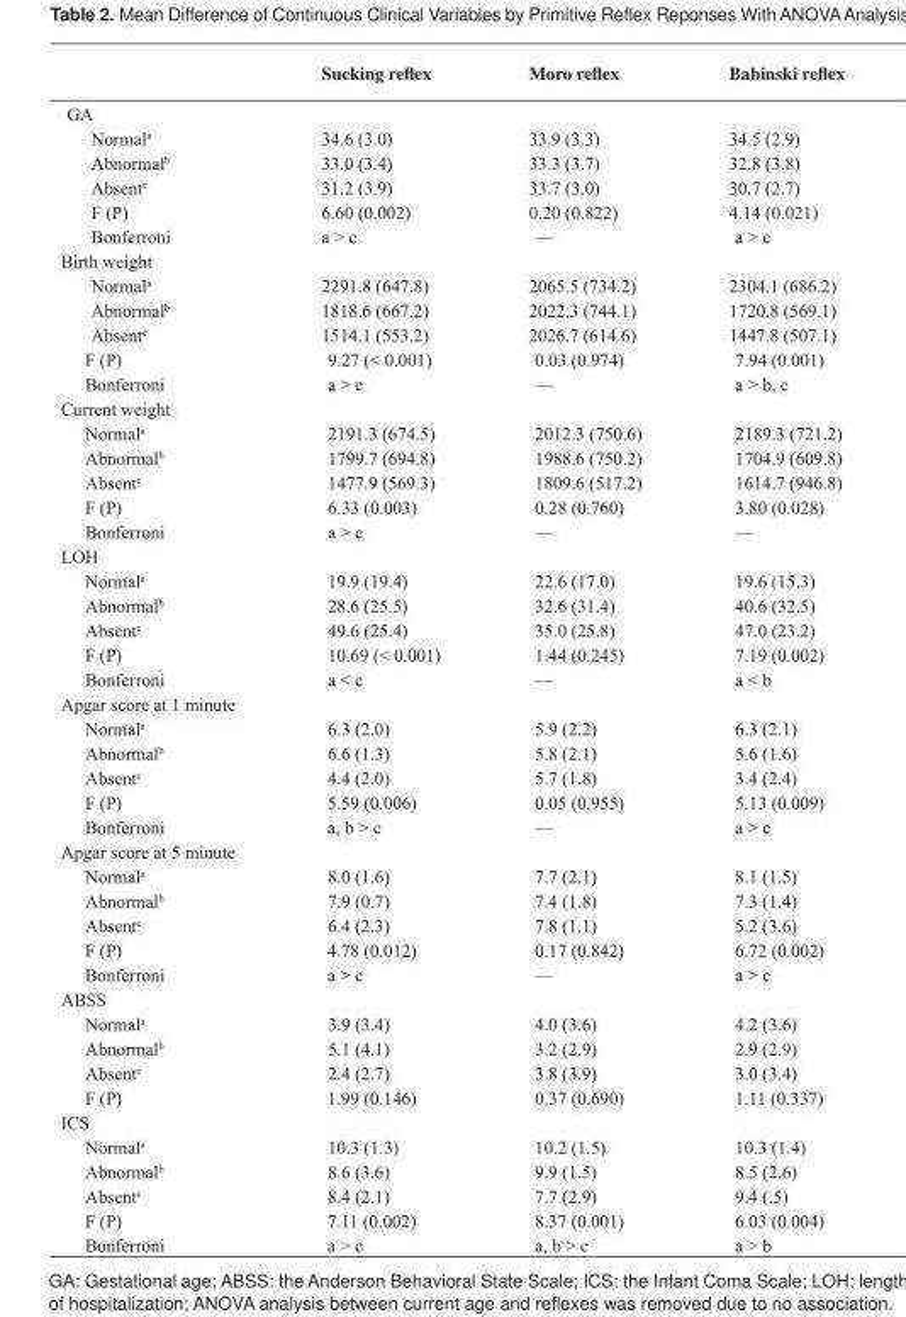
<table><thead><tr><td></td><td>Sucking refl ex</td><td>Moro refl ex</td><td>Babinski refl ex</td></tr></thead><tbody><tr><td colspan="4">GA</td></tr><tr><td>Normal<sup>a</sup></td><td>34.6 (3.0)</td><td>33.9 (3.3)</td><td>34.5 (2.9)</td></tr><tr><td>Abnormal<sup>b</sup></td><td>33.0 (3.4)</td><td>33.3 (3.7)</td><td>32.8 (3.8)</td></tr><tr><td>Absent<sup>c</sup></td><td>31.2 (3.9)</td><td>33.7 (3.0)</td><td>30.7 (2.7)</td></tr><tr><td>F (P)</td><td>6.60 (0.002)</td><td>0.20 (0.822)</td><td>4.14 (0.021)</td></tr><tr><td>Bonferroni</td><td>a &gt; c</td><td>—</td><td>a &gt; c</td></tr><tr><td colspan="4">Birth weight</td></tr><tr><td>Normal<sup>a</sup></td><td>2291.8 (647.8)</td><td>2065.5 (734.2)</td><td>2304.1 (686.2)</td></tr><tr><td>Abnormal<sup>b</sup></td><td>1818.6 (667.2)</td><td>2022.3 (744.1)</td><td>1720.8 (569.1)</td></tr><tr><td>Absent<sup>c</sup></td><td>1514.1 (553.2)</td><td>2026.7 (614.6)</td><td>1447.8 (507.1)</td></tr><tr><td>F (P)</td><td>9.27 (&lt; 0.001)</td><td>0.03 (0.974)</td><td>7.94 (0.001)</td></tr><tr><td>Bonferroni</td><td>a &gt; c</td><td>—</td><td>a &gt; b, c</td></tr><tr><td colspan="4">Current weight</td></tr><tr><td>Normal<sup>a</sup></td><td>2191.3 (674.5)</td><td>2012.3 (750.6)</td><td>2189.3 (721.2)</td></tr><tr><td>Abnormal<sup>b</sup></td><td>1799.7 (694.8)</td><td>1988.6 (750.2)</td><td>1704.9 (609.8)</td></tr><tr><td>Absent<sup>c</sup></td><td>1477.9 (569.3)</td><td>1809.6 (517.2)</td><td>1614.7 (946.8)</td></tr><tr><td>F (P)</td><td>6.33 (0.003)</td><td>0.28 (0.760)</td><td>3.80 (0.028)</td></tr><tr><td>Bonferroni</td><td>a &gt; c</td><td>—</td><td>—</td></tr><tr><td colspan="4">LOH</td></tr><tr><td>Normal<sup>a</sup></td><td>19.9 (19.4)</td><td>22.6 (17.0)</td><td>19.6 (15.3)</td></tr><tr><td>Abnormal<sup>b</sup></td><td>28.6 (25.5)</td><td>32.6 (31.4)</td><td>40.6 (32.5)</td></tr><tr><td>Absent<sup>c</sup></td><td>49.6 (25.4)</td><td>35.0 (25.8)</td><td>47.0 (23.2)</td></tr><tr><td>F (P)</td><td>10.69 (&lt; 0.001)</td><td>1.44 (0.245)</td><td>7.19 (0.002)</td></tr><tr><td>Bonferroni</td><td>a &lt; c</td><td>—</td><td>a &lt; b</td></tr><tr><td colspan="4">Apgar score at 1 minute</td></tr><tr><td>Normal<sup>a</sup></td><td>6.3 (2.0)</td><td>5.9 (2.2)</td><td>6.3 (2.1)</td></tr><tr><td>Abnormal<sup>b</sup></td><td>6.6 (1.3)</td><td>5.8 (2.1)</td><td>5.6 (1.6)</td></tr><tr><td>Absent<sup>c</sup></td><td>4.4 (2.0)</td><td>5.7 (1.8)</td><td>3.4 (2.4)</td></tr><tr><td>F (P)</td><td>5.59 (0.006)</td><td>0.05 (0.955)</td><td>5.13 (0.009)</td></tr><tr><td>Bonferroni</td><td>a, b &gt; c</td><td>—</td><td>a &gt; c</td></tr><tr><td colspan="4">Apgar score at 5 minute</td></tr><tr><td>Normal<sup>a</sup></td><td>8.0 (1.6)</td><td>7.7 (2.1)</td><td>8.1 (1.5)</td></tr><tr><td>Abnormal<sup>b</sup></td><td>7.9 (0.7)</td><td>7.4 (1.8)</td><td>7.3 (1.4)</td></tr><tr><td>Absent<sup>c</sup></td><td>6.4 (2.3)</td><td>7.8 (1.1)</td><td>5.2 (3.6)</td></tr><tr><td>F (P)</td><td>4.78 (0.012)</td><td>0.17 (0.842)</td><td>6.72 (0.002)</td></tr><tr><td>Bonferroni</td><td>a &gt; c</td><td>—</td><td>a &gt; c</td></tr><tr><td colspan="4">ABSS</td></tr><tr><td>Normal<sup>a</sup></td><td>3.9 (3.4)</td><td>4.0 (3.6)</td><td>4.2 (3.6)</td></tr><tr><td>Abnormal<sup>b</sup></td><td>5.1 (4.1)</td><td>3.2 (2.9)</td><td>2.9 (2.9)</td></tr><tr><td>Absent<sup>c</sup></td><td>2.4 (2.7)</td><td>3.8 (3.9)</td><td>3.0 (3.4)</td></tr><tr><td>F (P)</td><td>1.99 (0.146)</td><td>0.37 (0.690)</td><td>1.11 (0.337)</td></tr><tr><td colspan="4">ICS</td></tr><tr><td>Normal<sup>a</sup></td><td>10.3 (1.3)</td><td>10.2 (1.5)</td><td>10.3 (1.4)</td></tr><tr><td>Abnormal<sup>b</sup></td><td>8.6 (3.6)</td><td>9.9 (1.5)</td><td>8.5 (2.6)</td></tr><tr><td>Absent<sup>c</sup></td><td>8.4 (2.1)</td><td>7.7 (2.9)</td><td>9.4 (.5)</td></tr><tr><td>F (P)</td><td>7.11 (0.002)</td><td>8.37 (0.001)</td><td>6.03 (0.004)</td></tr><tr><td>Bonferroni</td><td>a &gt; c</td><td>a, b &gt; c</td><td>a &gt; b</td></tr></tbody></table>